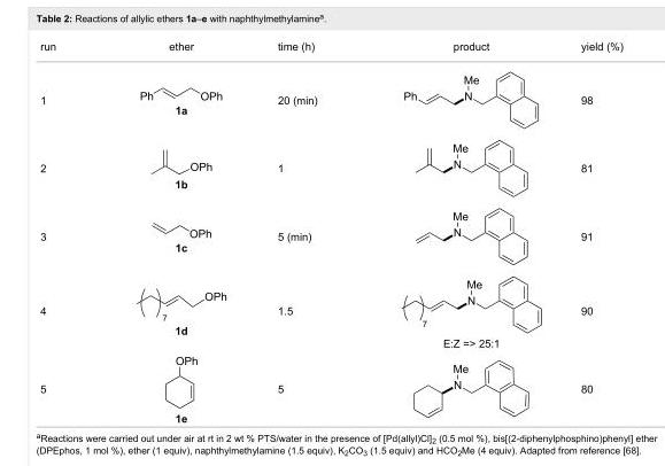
<table><tbody><tr><td>run</td><td>ether</td><td>time (h)</td><td>product</td><td>yield (%)</td></tr><tr><td>1</td><td>1a</td><td>20 (min)</td><td></td><td>98</td></tr><tr><td>2</td><td>1b</td><td>1</td><td></td><td>81</td></tr><tr><td>3</td><td>1c</td><td>5 (min)</td><td></td><td>91</td></tr><tr><td>4</td><td>1d</td><td>1.5</td><td>E:Z =&gt; 25:1</td><td>90</td></tr><tr><td>5</td><td>1e</td><td>5</td><td></td><td>80</td></tr></tbody></table>